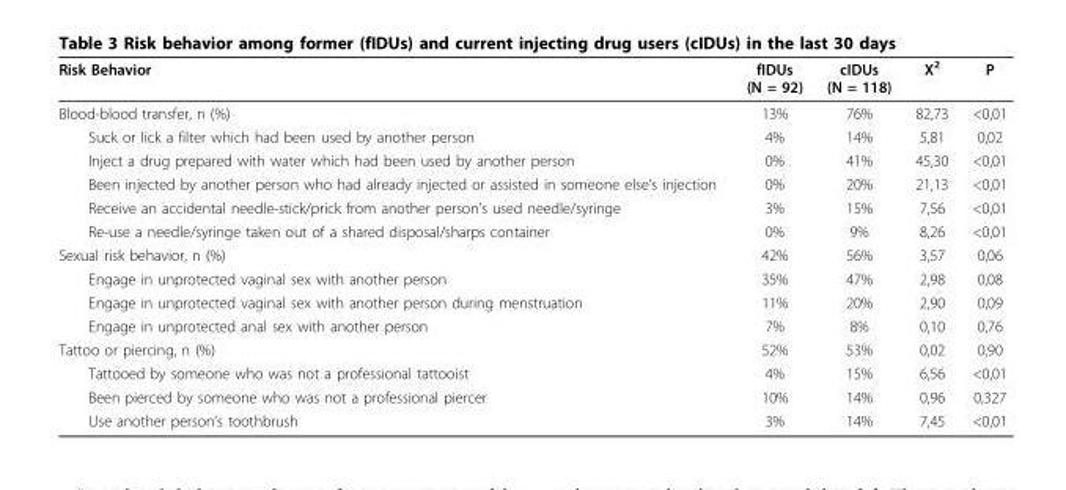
<table><thead><tr><td>Risk Behavior</td><td>fIDUs (N = 92)</td><td>cIDUs (N = 118)</td><td>X<sup>2</sup></td><td>P</td></tr></thead><tbody><tr><td>Blood-blood transfer, n (%)</td><td>13%</td><td>76%</td><td>82,73</td><td>&lt;0,01</td></tr><tr><td>Suck or lick a filter which had been used by another person</td><td>4%</td><td>14%</td><td>5,81</td><td>0,02</td></tr><tr><td>Inject a drug prepared with water which had been used by another person</td><td>0%</td><td>41%</td><td>45,30</td><td>&lt;0,01</td></tr><tr><td>Been injected by another person who had already injected or assisted in someone else’s injection</td><td>0%</td><td>20%</td><td>21,13</td><td>&lt;0,01</td></tr><tr><td>Receive an accidental needle-stick/prick from another person’s used needle/syringe</td><td>3%</td><td>15%</td><td>7,56</td><td>&lt;0,01</td></tr><tr><td>Re-use a needle/syringe taken out of a shared disposal/sharps container</td><td>0%</td><td>9%</td><td>8,26</td><td>&lt;0,01</td></tr><tr><td>Sexual risk behavior, n (%)</td><td>42%</td><td>56%</td><td>3,57</td><td>0,06</td></tr><tr><td>Engage in unprotected vaginal sex with another person</td><td>35%</td><td>47%</td><td>2,98</td><td>0,08</td></tr><tr><td>Engage in unprotected vaginal sex with another person during menstruation</td><td>11%</td><td>20%</td><td>2,90</td><td>0,09</td></tr><tr><td>Engage in unprotected anal sex with another person</td><td>7%</td><td>8%</td><td>0,10</td><td>0,76</td></tr><tr><td>Tattoo or piercing, n (%)</td><td>52%</td><td>53%</td><td>0,02</td><td>0,90</td></tr><tr><td>Tattooed by someone who was not a professional tattooist</td><td>4%</td><td>15%</td><td>6,56</td><td>&lt;0,01</td></tr><tr><td>Been pierced by someone who was not a professional piercer</td><td>10%</td><td>14%</td><td>0,96</td><td>0,327</td></tr><tr><td>Use another person’s toothbrush</td><td>3%</td><td>14%</td><td>7,45</td><td>&lt;0,01</td></tr></tbody></table>